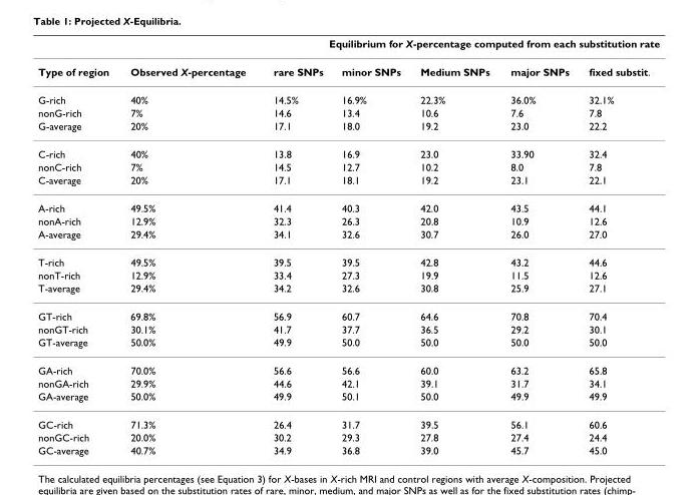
<table><thead><tr><td colspan="7">Equilibrium for X-percentage computed from each substitution rate</td></tr><tr><td>Type of region</td><td>Observed X-percentage</td><td>rare SNPs</td><td>minor SNPs</td><td>Medium SNPs</td><td>major SNPs</td><td>fixed substit.</td></tr></thead><tbody><tr><td>G-rich</td><td>40%</td><td>14.5%</td><td>16.9%</td><td>22.3%</td><td>36.0%</td><td>32.1%</td></tr><tr><td>nonG-rich</td><td>7%</td><td>14.6</td><td>13.4</td><td>10.6</td><td>7.6</td><td>7.8</td></tr><tr><td>G-average</td><td>20%</td><td>17.1</td><td>18.0</td><td>19.2</td><td>23.0</td><td>22.2</td></tr><tr><td>C-rich</td><td>40%</td><td>13.8</td><td>16.9</td><td>23.0</td><td>33.90</td><td>32.4</td></tr><tr><td>nonC-rich</td><td>7%</td><td>14.5</td><td>12.7</td><td>10.2</td><td>8.0</td><td>7.8</td></tr><tr><td>C-average</td><td>20%</td><td>17.1</td><td>18.1</td><td>19.2</td><td>23.1</td><td>22.1</td></tr><tr><td>A-rich</td><td>49.5%</td><td>41.4</td><td>40.3</td><td>42.0</td><td>43.5</td><td>44.1</td></tr><tr><td>nonA-rich</td><td>12.9%</td><td>32.3</td><td>26.3</td><td>20.8</td><td>10.9</td><td>12.6</td></tr><tr><td>A-average</td><td>29.4%</td><td>34.1</td><td>32.6</td><td>30.7</td><td>26.0</td><td>27.0</td></tr><tr><td>T-rich</td><td>49.5%</td><td>39.5</td><td>39.5</td><td>42.8</td><td>43.2</td><td>44.6</td></tr><tr><td>nonT-rich</td><td>12.9%</td><td>33.4</td><td>27.3</td><td>19.9</td><td>11.5</td><td>12.6</td></tr><tr><td>T-average</td><td>29.4%</td><td>34.2</td><td>32.6</td><td>30.8</td><td>25.9</td><td>27.1</td></tr><tr><td>GT-rich</td><td>69.8%</td><td>56.9</td><td>60.7</td><td>64.6</td><td>70.8</td><td>70.4</td></tr><tr><td>nonGT-rich</td><td>30.1%</td><td>41.7</td><td>37.7</td><td>36.5</td><td>29.2</td><td>30.1</td></tr><tr><td>GT-average</td><td>50.0%</td><td>49.9</td><td>50.0</td><td>50.0</td><td>50.0</td><td>50.0</td></tr><tr><td>GA-rich</td><td>70.0%</td><td>56.6</td><td>56.6</td><td>60.0</td><td>63.2</td><td>65.8</td></tr><tr><td>nonGA-rich</td><td>29.9%</td><td>44.6</td><td>42.1</td><td>39.1</td><td>31.7</td><td>34.1</td></tr><tr><td>GA-average</td><td>50.0%</td><td>49.9</td><td>50.1</td><td>50.0</td><td>49.9</td><td>49.9</td></tr><tr><td>GC-rich</td><td>71.3%</td><td>26.4</td><td>31.7</td><td>39.5</td><td>56.1</td><td>60.6</td></tr><tr><td>nonGC-rich</td><td>20.0%</td><td>30.2</td><td>29.3</td><td>27.8</td><td>27.4</td><td>24.4</td></tr><tr><td>GC-average</td><td>40.7%</td><td>34.9</td><td>36.8</td><td>39.0</td><td>45.7</td><td>45.0</td></tr></tbody></table>